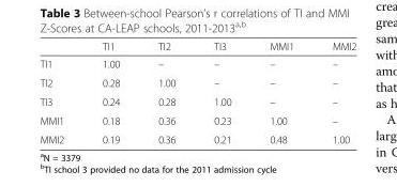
<table><thead><tr><td></td><td>TI1</td><td>TI2</td><td>TI3</td><td>MMI1</td><td>MMI2</td></tr></thead><tbody><tr><td>TI1</td><td>1.00</td><td>–</td><td>–</td><td>–</td><td>–</td></tr><tr><td>TI2</td><td>0.28</td><td>1.00</td><td>–</td><td>–</td><td>–</td></tr><tr><td>TI3</td><td>0.24</td><td>0.28</td><td>1.00</td><td>–</td><td>–</td></tr><tr><td>MMI1</td><td>0.18</td><td>0.36</td><td>0.23</td><td>1.00</td><td>–</td></tr><tr><td>MMI2</td><td>0.19</td><td>0.36</td><td>0.21</td><td>0.48</td><td>1.00</td></tr></tbody></table>